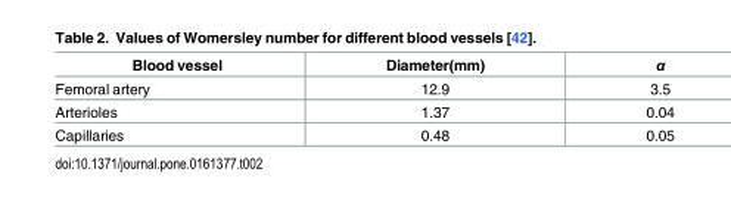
<table><thead><tr><td>Blood vessel</td><td>Diameter(mm)</td><td>α</td></tr></thead><tbody><tr><td>Femoral artery</td><td>12.9</td><td>3.5</td></tr><tr><td>Arterioles</td><td>1.37</td><td>0.04</td></tr><tr><td>Capillaries</td><td>0.48</td><td>0.05</td></tr></tbody></table>